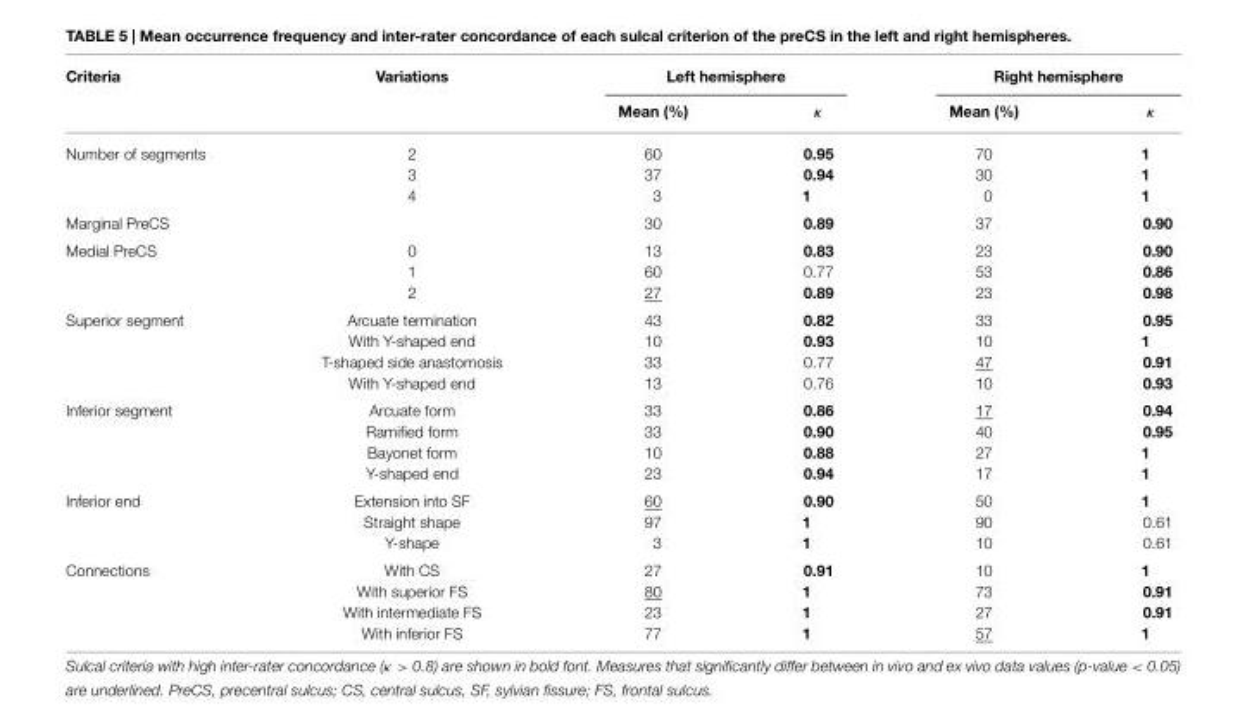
<table><thead><tr><td rowspan="2">Criteria</td><td rowspan="2">Variations</td><td colspan="2">Left hemisphere</td><td colspan="2">Right hemisphere</td></tr><tr><td>Mean (%)</td><td>κ</td><td>Mean (%)</td><td>κ</td></tr></thead><tbody><tr><td rowspan="3">Number of segments</td><td>2</td><td>60</td><td>0.95</td><td>70</td><td>1</td></tr><tr><td>3</td><td>37</td><td>0.94</td><td>30</td><td>1</td></tr><tr><td>4</td><td>3</td><td>1</td><td>0</td><td>1</td></tr><tr><td>Marginal PreCS</td><td></td><td>30</td><td>0.89</td><td>37</td><td>0.90</td></tr><tr><td rowspan="3">Medial PreCS</td><td>0</td><td>13</td><td>0.83</td><td>23</td><td>0.90</td></tr><tr><td>1</td><td>60</td><td>0.77</td><td>53</td><td>0.86</td></tr><tr><td>2</td><td>27</td><td>0.89</td><td>23</td><td>0.98</td></tr><tr><td rowspan="4">Superior segment</td><td>Arcuate termination</td><td>43</td><td>0.82</td><td>33</td><td>0.95</td></tr><tr><td>With Y-shaped end</td><td>10</td><td>0.93</td><td>10</td><td>1</td></tr><tr><td>T-shaped side anastomosis</td><td>33</td><td>0.77</td><td>47</td><td>0.91</td></tr><tr><td>With Y-shaped end</td><td>13</td><td>0.76</td><td>10</td><td>0.93</td></tr><tr><td rowspan="4">Inferior segment</td><td>Arcuate form</td><td>33</td><td>0.86</td><td>17</td><td>0.94</td></tr><tr><td>Ramified form</td><td>33</td><td>0.90</td><td>40</td><td>0.95</td></tr><tr><td>Bayonet form</td><td>10</td><td>0.88</td><td>27</td><td>1</td></tr><tr><td>Y-shaped end</td><td>23</td><td>0.94</td><td>17</td><td>1</td></tr><tr><td rowspan="3">Inferior end</td><td>Extension into SF</td><td>60</td><td>0.90</td><td>50</td><td>1</td></tr><tr><td>Straight shape</td><td>97</td><td>1</td><td>90</td><td>0.61</td></tr><tr><td>Y-shape</td><td>3</td><td>1</td><td>10</td><td>0.61</td></tr><tr><td rowspan="4">Connections</td><td>With CS</td><td>27</td><td>0.91</td><td>10</td><td>1</td></tr><tr><td>With superior FS</td><td>80</td><td>1</td><td>73</td><td>0.91</td></tr><tr><td>With intermediate FS</td><td>23</td><td>1</td><td>27</td><td>0.91</td></tr><tr><td>With inferior FS</td><td>77</td><td>1</td><td>57</td><td>1</td></tr></tbody></table>